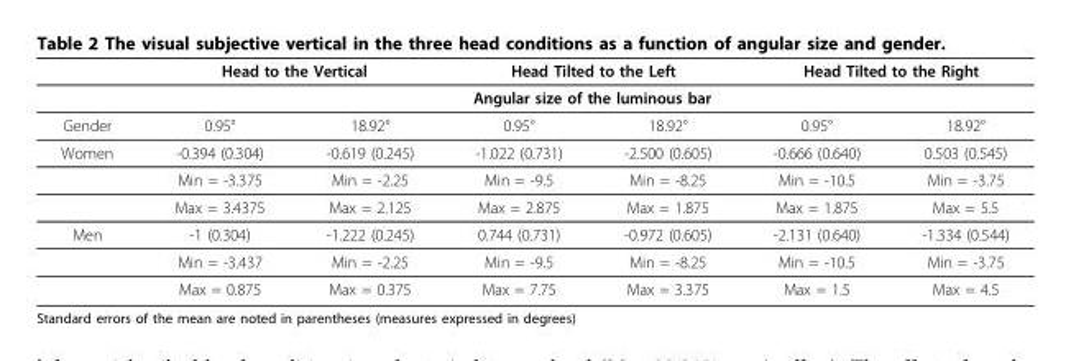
<table><thead><tr><td rowspan="3">Gender</td><td colspan="2">Head to the Vertical</td><td colspan="2">Head Tilted to the Left</td><td colspan="2">Head Tilted to the Right</td></tr><tr><td colspan="6">Angular size of the luminous bar</td></tr><tr><td>0.95°</td><td>18.92°</td><td>0.95°</td><td>18.92°</td><td>0.95°</td><td>18.92°</td></tr></thead><tbody><tr><td rowspan="3">Women</td><td>-0.394 (0.304)</td><td>-0.619 (0.245)</td><td>-1.022 (0.731)</td><td>-2.500 (0.605)</td><td>-0.666 (0.640)</td><td>0.503 (0.545)</td></tr><tr><td>Min = -3.375</td><td>Min = -2.25</td><td>Min = -9.5</td><td>Min = -8.25</td><td>Min = -10.5</td><td>Min = -3.75</td></tr><tr><td>Max = 3.4375</td><td>Max = 2.125</td><td>Max = 2.875</td><td>Max = 1.875</td><td>Max = 1.875</td><td>Max = 5.5</td></tr><tr><td rowspan="3">Men</td><td>-1 (0.304)</td><td>-1.222 (0.245)</td><td>0.744 (0.731)</td><td>-0.972 (0.605)</td><td>-2.131 (0.640)</td><td>-1.334 (0.544)</td></tr><tr><td>Min = -3.437</td><td>Min = -2.25</td><td>Min = -9.5</td><td>Min = -8.25</td><td>Min = -10.5</td><td>Min = -3.75</td></tr><tr><td>Max = 0.875</td><td>Max = 0.375</td><td>Max = 7.75</td><td>Max = 3.375</td><td>Max = 1.5</td><td>Max = 4.5</td></tr></tbody></table>